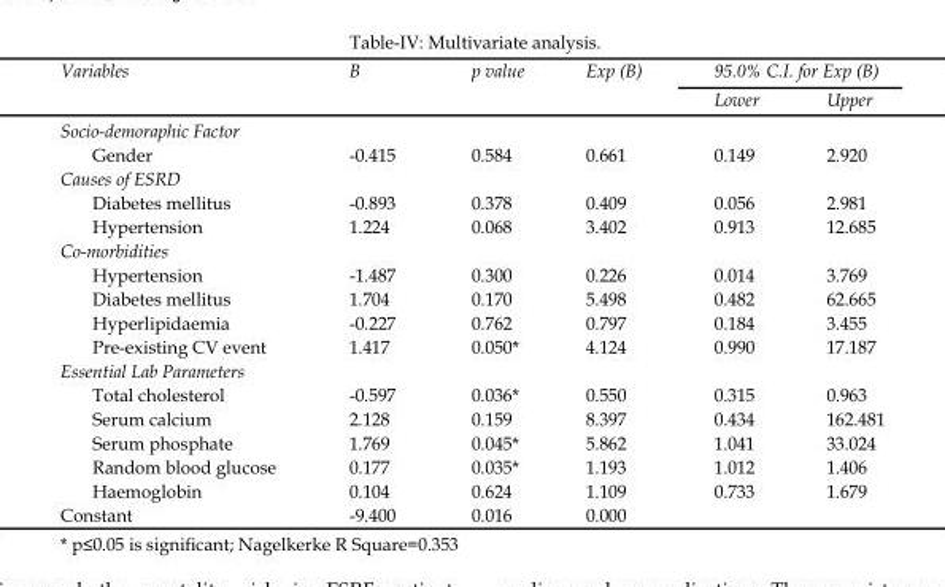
<table><thead><tr><td rowspan="2">Variables</td><td rowspan="2">B</td><td rowspan="2">p value</td><td rowspan="2">Exp (B)</td><td colspan="2">95.0% C.I. for Exp (B)</td></tr><tr><td>Lower</td><td>Upper</td></tr></thead><tbody><tr><td colspan="6">Socio-demoraphic Factor</td></tr><tr><td>Gender</td><td>-0.415</td><td>0.584</td><td>0.661</td><td>0.149</td><td>2.920</td></tr><tr><td colspan="6">Causes of ESRD</td></tr><tr><td>Diabetes mellitus</td><td>-0.893</td><td>0.378</td><td>0.409</td><td>0.056</td><td>2.981</td></tr><tr><td>Hypertension</td><td>1.224</td><td>0.068</td><td>3.402</td><td>0.913</td><td>12.685</td></tr><tr><td colspan="6">Co-morbidities</td></tr><tr><td>Hypertension</td><td>-1.487</td><td>0.300</td><td>0.226</td><td>0.014</td><td>3.769</td></tr><tr><td>Diabetes mellitus</td><td>1.704</td><td>0.170</td><td>5.498</td><td>0.482</td><td>62.665</td></tr><tr><td>Hyperlipidaemia</td><td>-0.227</td><td>0.762</td><td>0.797</td><td>0.184</td><td>3.455</td></tr><tr><td>Pre-existing CV event</td><td>1.417</td><td>0.050*</td><td>4.124</td><td>0.990</td><td>17.187</td></tr><tr><td colspan="6">Essential Lab Parameters</td></tr><tr><td>Total cholesterol</td><td>-0.597</td><td>0.036*</td><td>0.550</td><td>0.315</td><td>0.963</td></tr><tr><td>Serum calcium</td><td>2.128</td><td>0.159</td><td>8.397</td><td>0.434</td><td>162.481</td></tr><tr><td>Serum phosphate</td><td>1.769</td><td>0.045*</td><td>5.862</td><td>1.041</td><td>33.024</td></tr><tr><td>Random blood glucose</td><td>0.177</td><td>0.035*</td><td>1.193</td><td>1.012</td><td>1.406</td></tr><tr><td>Haemoglobin</td><td>0.104</td><td>0.624</td><td>1.109</td><td>0.733</td><td>1.679</td></tr><tr><td>Constant</td><td>-9.400</td><td>0.016</td><td>0.000</td><td></td><td></td></tr></tbody></table>